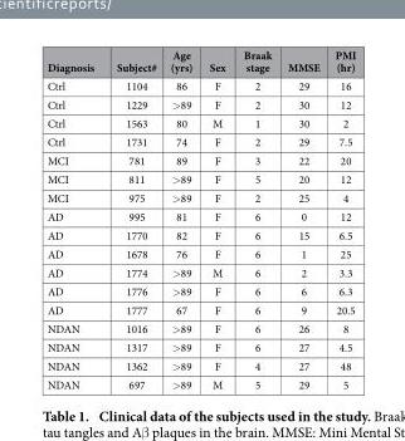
<table><thead><tr><td>Diagnosis</td><td>Subject#</td><td>Age (yrs)</td><td>Sex</td><td>Braak stage</td><td>MMSE</td><td>PMI (hr)</td></tr></thead><tbody><tr><td>Ctrl</td><td>1104</td><td>86</td><td>F</td><td>2</td><td>29</td><td>16</td></tr><tr><td>Ctrl</td><td>1229</td><td>&gt; 89</td><td>F</td><td>2</td><td>30</td><td>12</td></tr><tr><td>Ctrl</td><td>1563</td><td>80</td><td>M</td><td>1</td><td>30</td><td>2</td></tr><tr><td>Ctrl</td><td>1731</td><td>74</td><td>F</td><td>2</td><td>29</td><td>7.5</td></tr><tr><td>MCI</td><td>781</td><td>89</td><td>F</td><td>3</td><td>22</td><td>20</td></tr><tr><td>MCI</td><td>811</td><td>&gt; 89</td><td>F</td><td>5</td><td>20</td><td>12</td></tr><tr><td>MCI</td><td>975</td><td>&gt; 89</td><td>F</td><td>2</td><td>25</td><td>4</td></tr><tr><td>AD</td><td>995</td><td>81</td><td>F</td><td>6</td><td>0</td><td>12</td></tr><tr><td>AD</td><td>1770</td><td>82</td><td>F</td><td>6</td><td>15</td><td>6.5</td></tr><tr><td>AD</td><td>1678</td><td>76</td><td>F</td><td>6</td><td>1</td><td>25</td></tr><tr><td>AD</td><td>1774</td><td>&gt; 89</td><td>M</td><td>6</td><td>2</td><td>3.3</td></tr><tr><td>AD</td><td>1776</td><td>&gt; 89</td><td>F</td><td>6</td><td>6</td><td>6.3</td></tr><tr><td>AD</td><td>1777</td><td>67</td><td>F</td><td>6</td><td>9</td><td>20.5</td></tr><tr><td>NDAN</td><td>1016</td><td>&gt; 89</td><td>F</td><td>6</td><td>26</td><td>8</td></tr><tr><td>NDAN</td><td>1317</td><td>&gt; 89</td><td>F</td><td>6</td><td>27</td><td>4.5</td></tr><tr><td>NDAN</td><td>1362</td><td>&gt; 89</td><td>F</td><td>4</td><td>27</td><td>48</td></tr><tr><td>NDAN</td><td>697</td><td>&gt; 89</td><td>M</td><td>5</td><td>29</td><td>5</td></tr></tbody></table>